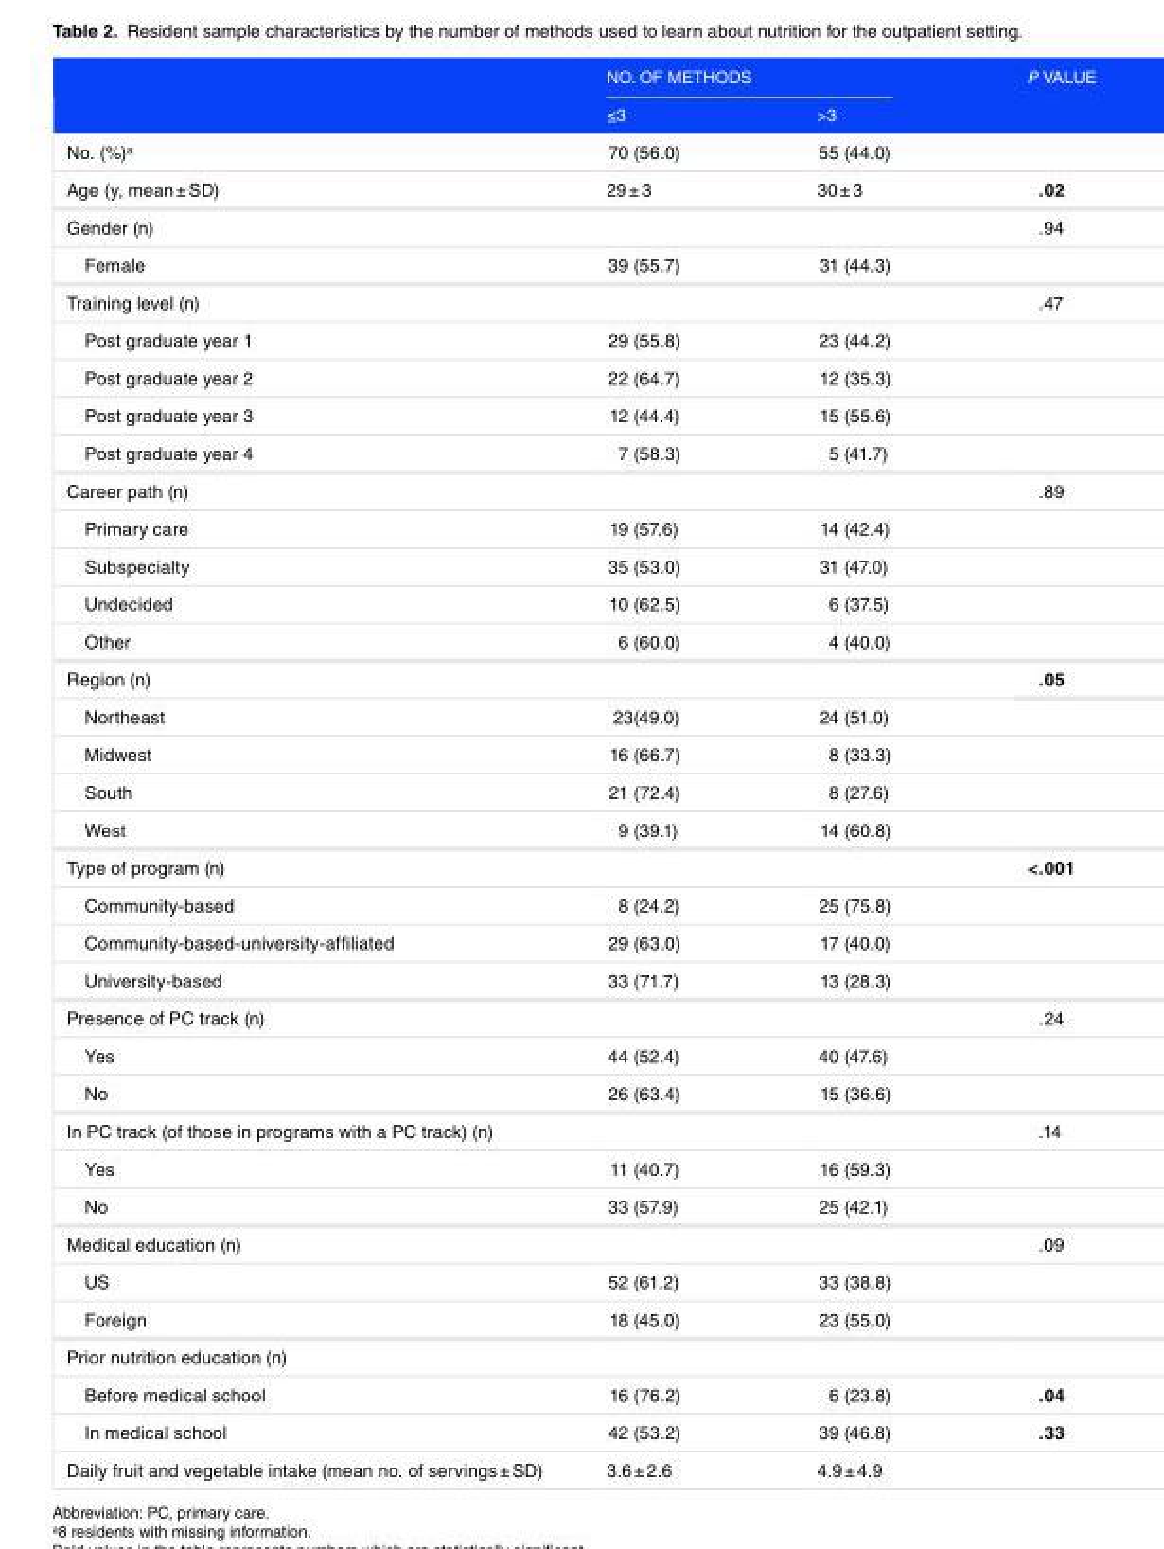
<table><thead><tr><td rowspan="2"></td><td colspan="2">NO. OF METHODS</td><td rowspan="2">P vAlUE</td></tr><tr><td>≤3</td><td>&gt;3</td></tr></thead><tbody><tr><td>No. (%)<sup>a</sup></td><td>70 (56.0)</td><td>55 (44.0)</td><td></td></tr><tr><td>Age (y, mean ± SD)</td><td>29 ± 3</td><td>30 ± 3</td><td>.02</td></tr><tr><td colspan="3">Gender (n)</td><td>.94</td></tr><tr><td>Female</td><td>39 (55.7)</td><td>31 (44.3)</td><td></td></tr><tr><td colspan="3">Training level (n)</td><td>.47</td></tr><tr><td>Post graduate year 1</td><td>29 (55.8)</td><td>23 (44.2)</td><td></td></tr><tr><td>Post graduate year 2</td><td>22 (64.7)</td><td>12 (35.3)</td><td></td></tr><tr><td>Post graduate year 3</td><td>12 (44.4)</td><td>15 (55.6)</td><td></td></tr><tr><td>Post graduate year 4</td><td>7 (58.3)</td><td>5 (41.7)</td><td></td></tr><tr><td colspan="3">Career path (n)</td><td>.89</td></tr><tr><td>Primary care</td><td>19 (57.6)</td><td>14 (42.4)</td><td></td></tr><tr><td>Subspecialty</td><td>35 (53.0)</td><td>31 (47.0)</td><td></td></tr><tr><td>Undecided</td><td>10 (62.5)</td><td>6 (37.5)</td><td></td></tr><tr><td>Other</td><td>6 (60.0)</td><td>4 (40.0)</td><td></td></tr><tr><td colspan="3">Region (n)</td><td>.05</td></tr><tr><td>Northeast</td><td>23(49.0)</td><td>24 (51.0)</td><td></td></tr><tr><td>Midwest</td><td>16 (66.7)</td><td>8 (33.3)</td><td></td></tr><tr><td>South</td><td>21 (72.4)</td><td>8 (27.6)</td><td></td></tr><tr><td>West</td><td>9 (39.1)</td><td>14 (60.8)</td><td></td></tr><tr><td colspan="3">Type of program (n)</td><td>&lt;.001</td></tr><tr><td>Community-based</td><td>8 (24.2)</td><td>25 (75.8)</td><td></td></tr><tr><td>Community-based-university-affiliated</td><td>29 (63.0)</td><td>17 (40.0)</td><td></td></tr><tr><td>University-based</td><td>33 (71.7)</td><td>13 (28.3)</td><td></td></tr><tr><td colspan="3">Presence of PC track (n)</td><td>.24</td></tr><tr><td>Yes</td><td>44 (52.4)</td><td>40 (47.6)</td><td></td></tr><tr><td>No</td><td>26 (63.4)</td><td>15 (36.6)</td><td></td></tr><tr><td colspan="3">In PC track (of those in programs with a PC track) (n)</td><td>.14</td></tr><tr><td>Yes</td><td>11 (40.7)</td><td>16 (59.3)</td><td></td></tr><tr><td>No</td><td>33 (57.9)</td><td>25 (42.1)</td><td></td></tr><tr><td colspan="3">Medical education (n)</td><td>.09</td></tr><tr><td>US</td><td>52 (61.2)</td><td>33 (38.8)</td><td></td></tr><tr><td>Foreign</td><td>18 (45.0)</td><td>23 (55.0)</td><td></td></tr><tr><td colspan="4">Prior nutrition education (n)</td></tr><tr><td>Before medical school</td><td>16 (76.2)</td><td>6 (23.8)</td><td>.04</td></tr><tr><td>In medical school</td><td>42 (53.2)</td><td>39 (46.8)</td><td>.33</td></tr><tr><td>Daily fruit and vegetable intake (mean no. of servings ± SD)</td><td>3.6 ± 2.6</td><td>4.9 ± 4.9</td><td></td></tr></tbody></table>